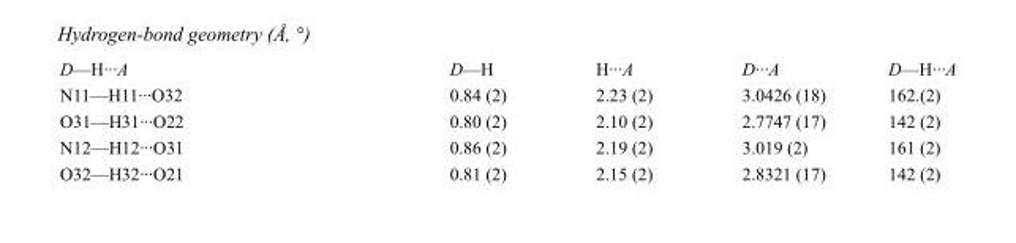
<table><tbody><tr><td>D—H···A</td><td>D—H</td><td>H···A</td><td>D···A</td><td>D—H···A</td></tr><tr><td>N11—H11···O32</td><td>0.84 (2)</td><td>2.23 (2)</td><td>3.0426 (18)</td><td>162.(2)</td></tr><tr><td>O31—H31···O22</td><td>0.80 (2)</td><td>2.10 (2)</td><td>2.7747 (17)</td><td>142 (2)</td></tr><tr><td>N12—H12···O31</td><td>0.86 (2)</td><td>2.19 (2)</td><td>3.019 (2)</td><td>161 (2)</td></tr><tr><td>O32—H32···O21</td><td>0.81 (2)</td><td>2.15 (2)</td><td>2.8321 (17)</td><td>142 (2)</td></tr></tbody></table>